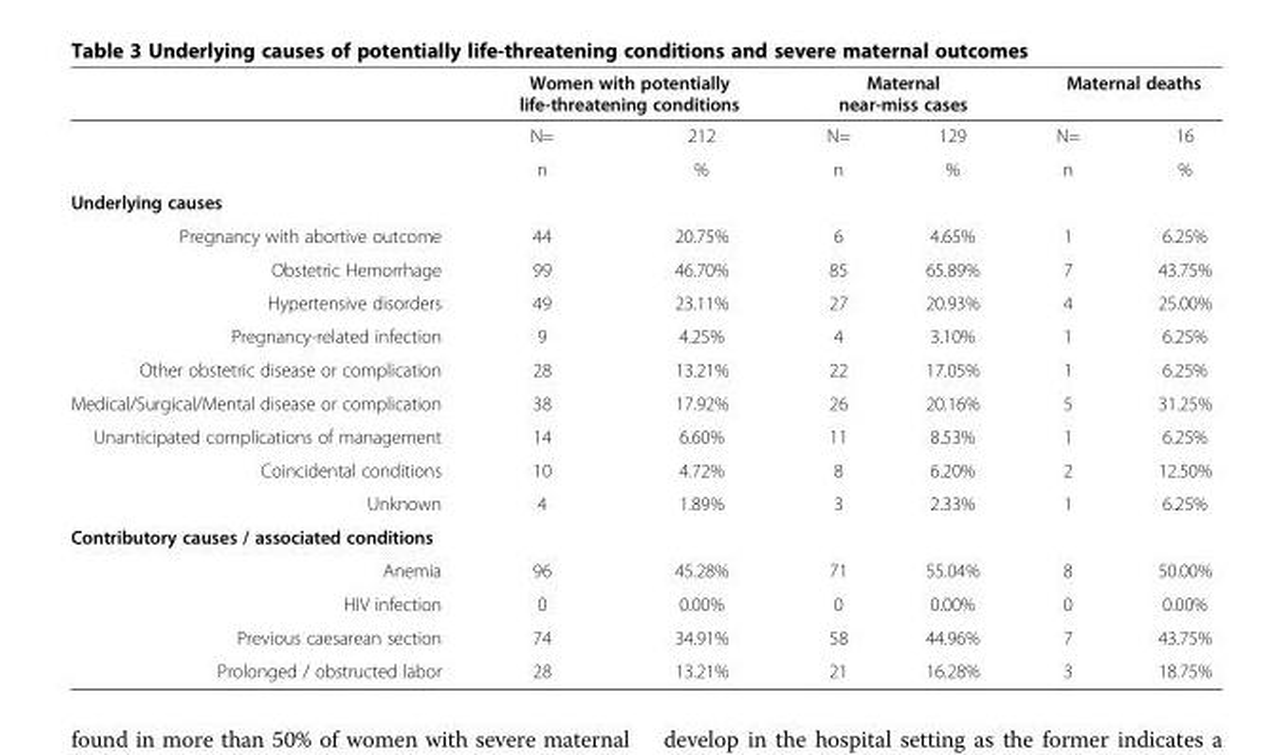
<table><thead><tr><td rowspan="2"></td><td colspan="2">Women with potentially life-threatening conditions</td><td colspan="2">Maternal near-miss cases</td><td colspan="2">Maternal deaths</td></tr><tr><td>N=</td><td>212</td><td>N=</td><td>129</td><td>N=</td><td>16</td></tr></thead><tbody><tr><td></td><td>n</td><td>%</td><td>n</td><td>%</td><td>n</td><td>%</td></tr><tr><td colspan="7">Underlying causes</td></tr><tr><td>Pregnancy with abortive outcome</td><td>44</td><td>20.75%</td><td>6</td><td>4.65%</td><td>1</td><td>6.25%</td></tr><tr><td>Obstetric Hemorrhage</td><td>99</td><td>46.70%</td><td>85</td><td>65.89%</td><td>7</td><td>43.75%</td></tr><tr><td>Hypertensive disorders</td><td>49</td><td>23.11%</td><td>27</td><td>20.93%</td><td>4</td><td>25.00%</td></tr><tr><td>Pregnancy-related infection</td><td>9</td><td>4.25%</td><td>4</td><td>3.10%</td><td>1</td><td>6.25%</td></tr><tr><td>Other obstetric disease or complication</td><td>28</td><td>13.21%</td><td>22</td><td>17.05%</td><td>1</td><td>6.25%</td></tr><tr><td>Medical/Surgical/Mental disease or complication</td><td>38</td><td>17.92%</td><td>26</td><td>20.16%</td><td>5</td><td>31.25%</td></tr><tr><td>Unanticipated complications of management</td><td>14</td><td>6.60%</td><td>11</td><td>8.53%</td><td>1</td><td>6.25%</td></tr><tr><td>Coincidental conditions</td><td>10</td><td>4.72%</td><td>8</td><td>6.20%</td><td>2</td><td>12.50%</td></tr><tr><td>Unknown</td><td>4</td><td>1.89%</td><td>3</td><td>2.33%</td><td>1</td><td>6.25%</td></tr><tr><td colspan="7">Contributory causes / associated conditions</td></tr><tr><td>Anemia</td><td>96</td><td>45.28%</td><td>71</td><td>55.04%</td><td>8</td><td>50.00%</td></tr><tr><td>HIV infection</td><td>0</td><td>0.00%</td><td>0</td><td>0.00%</td><td>0</td><td>0.00%</td></tr><tr><td>Previous caesarean section</td><td>74</td><td>34.91%</td><td>58</td><td>44.96%</td><td>7</td><td>43.75%</td></tr><tr><td>Prolonged / obstructed labor</td><td>28</td><td>13.21%</td><td>21</td><td>16.28%</td><td>3</td><td>18.75%</td></tr></tbody></table>